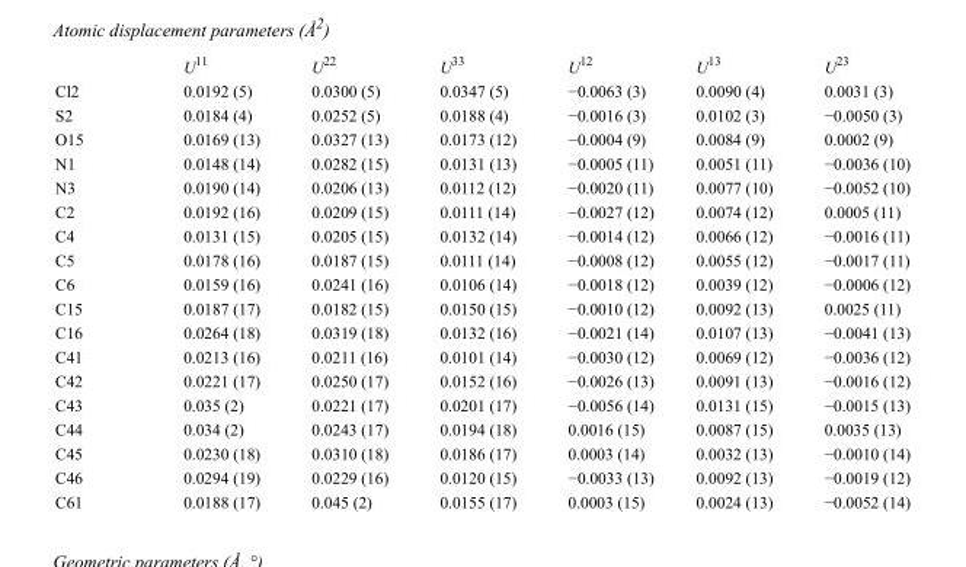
<table><thead><tr><td></td><td>U<sup>11</sup></td><td>U<sup>22</sup></td><td>U<sup>33</sup></td><td>U<sup>12</sup></td><td>U<sup>13</sup></td><td>U<sup>23</sup></td></tr></thead><tbody><tr><td>Cl2</td><td>0.0192 (5)</td><td>0.0300 (5)</td><td>0.0347 (5)</td><td>−0.0063 (3)</td><td>0.0090 (4)</td><td>0.0031 (3)</td></tr><tr><td>S2</td><td>0.0184 (4)</td><td>0.0252 (5)</td><td>0.0188 (4)</td><td>−0.0016 (3)</td><td>0.0102 (3)</td><td>−0.0050 (3)</td></tr><tr><td>O15</td><td>0.0169 (13)</td><td>0.0327 (13)</td><td>0.0173 (12)</td><td>−0.0004 (9)</td><td>0.0084 (9)</td><td>0.0002 (9)</td></tr><tr><td>N1</td><td>0.0148 (14)</td><td>0.0282 (15)</td><td>0.0131 (13)</td><td>−0.0005 (11)</td><td>0.0051 (11)</td><td>−0.0036 (10)</td></tr><tr><td>N3</td><td>0.0190 (14)</td><td>0.0206 (13)</td><td>0.0112 (12)</td><td>−0.0020 (11)</td><td>0.0077 (10)</td><td>−0.0052 (10)</td></tr><tr><td>C2</td><td>0.0192 (16)</td><td>0.0209 (15)</td><td>0.0111 (14)</td><td>−0.0027 (12)</td><td>0.0074 (12)</td><td>0.0005 (11)</td></tr><tr><td>C4</td><td>0.0131 (15)</td><td>0.0205 (15)</td><td>0.0132 (14)</td><td>−0.0014 (12)</td><td>0.0066 (12)</td><td>−0.0016 (11)</td></tr><tr><td>C5</td><td>0.0178 (16)</td><td>0.0187 (15)</td><td>0.0111 (14)</td><td>−0.0008 (12)</td><td>0.0055 (12)</td><td>−0.0017 (11)</td></tr><tr><td>C6</td><td>0.0159 (16)</td><td>0.0241 (16)</td><td>0.0106 (14)</td><td>−0.0018 (12)</td><td>0.0039 (12)</td><td>−0.0006 (12)</td></tr><tr><td>C15</td><td>0.0187 (17)</td><td>0.0182 (15)</td><td>0.0150 (15)</td><td>−0.0010 (12)</td><td>0.0092 (13)</td><td>0.0025 (11)</td></tr><tr><td>C16</td><td>0.0264 (18)</td><td>0.0319 (18)</td><td>0.0132 (16)</td><td>−0.0021 (14)</td><td>0.0107 (13)</td><td>−0.0041 (13)</td></tr><tr><td>C41</td><td>0.0213 (16)</td><td>0.0211 (16)</td><td>0.0101 (14)</td><td>−0.0030 (12)</td><td>0.0069 (12)</td><td>−0.0036 (12)</td></tr><tr><td>C42</td><td>0.0221 (17)</td><td>0.0250 (17)</td><td>0.0152 (16)</td><td>−0.0026 (13)</td><td>0.0091 (13)</td><td>−0.0016 (12)</td></tr><tr><td>C43</td><td>0.035 (2)</td><td>0.0221 (17)</td><td>0.0201 (17)</td><td>−0.0056 (14)</td><td>0.0131 (15)</td><td>−0.0015 (13)</td></tr><tr><td>C44</td><td>0.034 (2)</td><td>0.0243 (17)</td><td>0.0194 (18)</td><td>0.0016 (15)</td><td>0.0087 (15)</td><td>0.0035 (13)</td></tr><tr><td>C45</td><td>0.0230 (18)</td><td>0.0310 (18)</td><td>0.0186 (17)</td><td>0.0003 (14)</td><td>0.0032 (13)</td><td>−0.0010 (14)</td></tr><tr><td>C46</td><td>0.0294 (19)</td><td>0.0229 (16)</td><td>0.0120 (15)</td><td>−0.0033 (13)</td><td>0.0092 (13)</td><td>−0.0019 (12)</td></tr><tr><td>C61</td><td>0.0188 (17)</td><td>0.045 (2)</td><td>0.0155 (17)</td><td>0.0003 (15)</td><td>0.0024 (13)</td><td>−0.0052 (14)</td></tr></tbody></table>